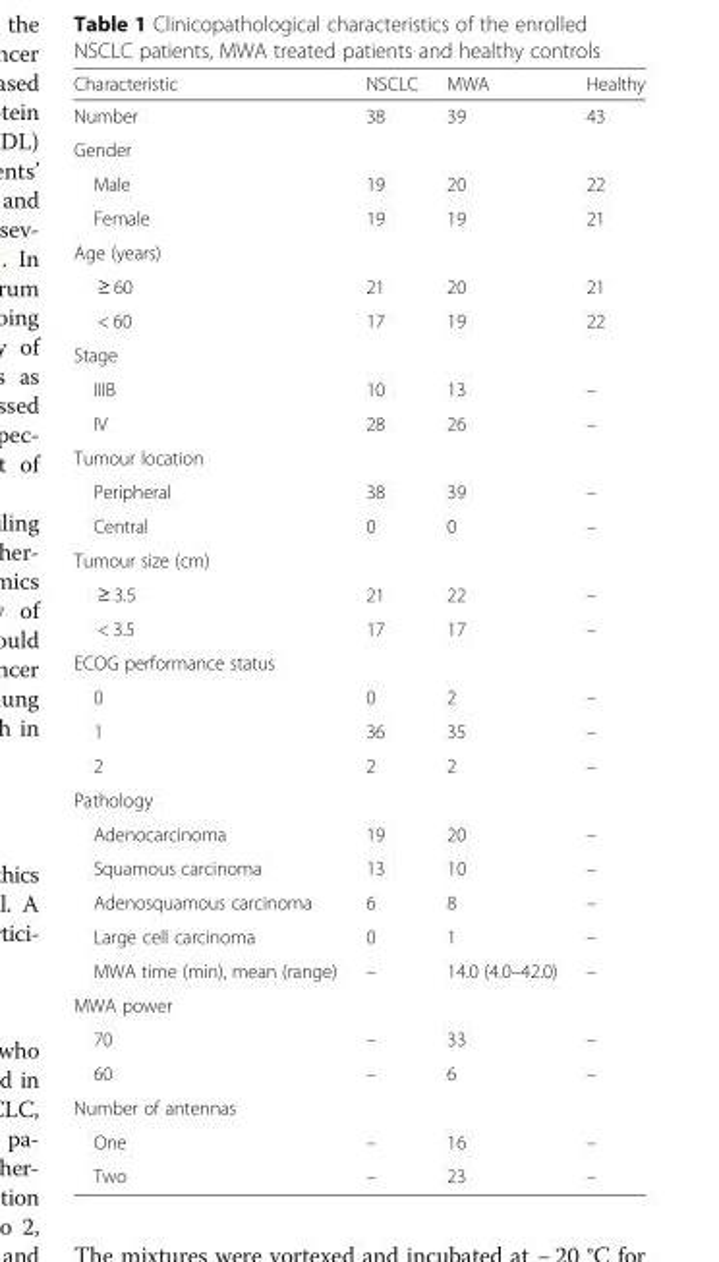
<table><thead><tr><td>Characteristic</td><td>NSCLC</td><td>MWA</td><td>Healthy</td></tr></thead><tbody><tr><td>Number</td><td>38</td><td>39</td><td>43</td></tr><tr><td colspan="4">Gender</td></tr><tr><td>Male</td><td>19</td><td>20</td><td>22</td></tr><tr><td>Female</td><td>19</td><td>19</td><td>21</td></tr><tr><td colspan="4">Age (years)</td></tr><tr><td>≥ 60</td><td>21</td><td>20</td><td>21</td></tr><tr><td>&lt; 60</td><td>17</td><td>19</td><td>22</td></tr><tr><td colspan="4">Stage</td></tr><tr><td>IIIB</td><td>10</td><td>13</td><td>–</td></tr><tr><td>IV</td><td>28</td><td>26</td><td>–</td></tr><tr><td colspan="4">Tumour location</td></tr><tr><td>Peripheral</td><td>38</td><td>39</td><td>–</td></tr><tr><td>Central</td><td>0</td><td>0</td><td>–</td></tr><tr><td colspan="4">Tumour size (cm)</td></tr><tr><td>≥ 3.5</td><td>21</td><td>22</td><td>–</td></tr><tr><td>&lt; 3.5</td><td>17</td><td>17</td><td>–</td></tr><tr><td colspan="4">ECOG performance status</td></tr><tr><td>0</td><td>0</td><td>2</td><td>–</td></tr><tr><td>1</td><td>36</td><td>35</td><td>–</td></tr><tr><td>2</td><td>2</td><td>2</td><td>–</td></tr><tr><td colspan="4">Pathology</td></tr><tr><td>Adenocarcinoma</td><td>19</td><td>20</td><td>–</td></tr><tr><td>Squamous carcinoma</td><td>13</td><td>10</td><td>–</td></tr><tr><td>Adenosquamous carcinoma</td><td>6</td><td>8</td><td>–</td></tr><tr><td>Large cell carcinoma</td><td>0</td><td>1</td><td>–</td></tr><tr><td>MWA time (min), mean (range)</td><td>–</td><td>14.0 (4.0–42.0)</td><td>–</td></tr><tr><td colspan="4">MWA power</td></tr><tr><td>70</td><td>–</td><td>33</td><td>–</td></tr><tr><td>60</td><td>–</td><td>6</td><td>–</td></tr><tr><td colspan="4">Number of antennas</td></tr><tr><td>One</td><td>–</td><td>16</td><td>–</td></tr><tr><td>Two</td><td>–</td><td>23</td><td>–</td></tr></tbody></table>